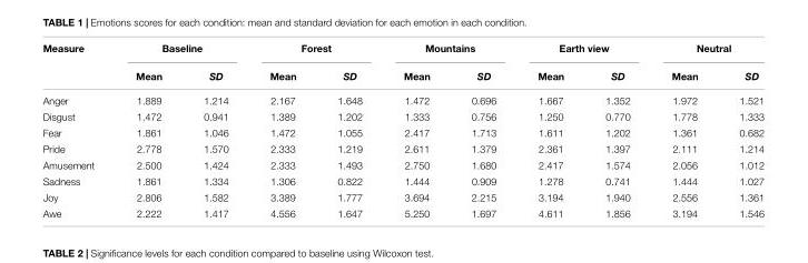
<table><thead><tr><td rowspan="2">Measure</td><td colspan="2">Baseline</td><td colspan="2">Forest</td><td colspan="2">Mountains</td><td colspan="2">Earth view</td><td colspan="2">Neutral</td></tr><tr><td>Mean</td><td>SD</td><td>Mean</td><td>SD</td><td>Mean</td><td>SD</td><td>Mean</td><td>SD</td><td>Mean</td><td>SD</td></tr></thead><tbody><tr><td>Anger</td><td>1.889</td><td>1.214</td><td>2.167</td><td>1.648</td><td>1.472</td><td>0.696</td><td>1.667</td><td>1.352</td><td>1.972</td><td>1.521</td></tr><tr><td>Disgust</td><td>1.472</td><td>0.941</td><td>1.389</td><td>1.202</td><td>1.333</td><td>0.756</td><td>1.250</td><td>0.770</td><td>1.778</td><td>1.333</td></tr><tr><td>Fear</td><td>1.861</td><td>1.046</td><td>1.472</td><td>1.055</td><td>2.417</td><td>1.713</td><td>1.611</td><td>1.202</td><td>1.361</td><td>0.682</td></tr><tr><td>Pride</td><td>2.778</td><td>1.570</td><td>2.333</td><td>1.219</td><td>2.611</td><td>1.379</td><td>2.361</td><td>1.397</td><td>2.111</td><td>1.214</td></tr><tr><td>Amusement</td><td>2.500</td><td>1.424</td><td>2.333</td><td>1.493</td><td>2.750</td><td>1.680</td><td>2.417</td><td>1.574</td><td>2.056</td><td>1.012</td></tr><tr><td>Sadness</td><td>1.861</td><td>1.334</td><td>1.306</td><td>0.822</td><td>1.444</td><td>0.909</td><td>1.278</td><td>0.741</td><td>1.444</td><td>1.027</td></tr><tr><td>Joy</td><td>2.806</td><td>1.582</td><td>3.389</td><td>1.777</td><td>3.694</td><td>2.215</td><td>3.194</td><td>1.940</td><td>2.556</td><td>1.361</td></tr><tr><td>Awe</td><td>2.222</td><td>1.417</td><td>4.556</td><td>1.647</td><td>5.250</td><td>1.697</td><td>4.611</td><td>1.856</td><td>3.194</td><td>1.546</td></tr></tbody></table>